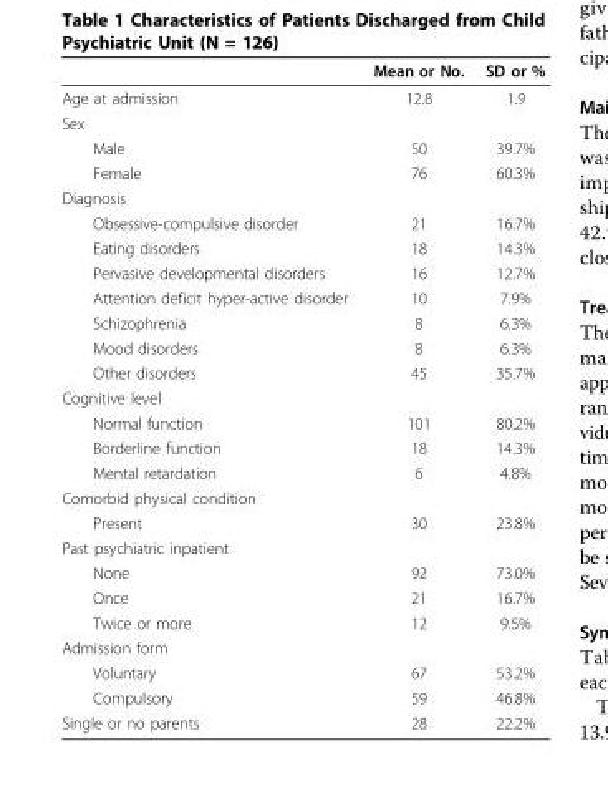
<table><thead><tr><td></td><td>Mean or No.</td><td>SD or %</td></tr></thead><tbody><tr><td>Age at admission</td><td>12.8</td><td>1.9</td></tr><tr><td colspan="3">Sex</td></tr><tr><td>Male</td><td>50</td><td>39.7%</td></tr><tr><td>Female</td><td>76</td><td>60.3%</td></tr><tr><td colspan="3">Diagnosis</td></tr><tr><td>Obsessive-compulsive disorder</td><td>21</td><td>16.7%</td></tr><tr><td>Eating disorders</td><td>18</td><td>14.3%</td></tr><tr><td>Pervasive developmental disorders</td><td>16</td><td>12.7%</td></tr><tr><td>Attention deficit hyper-active disorder</td><td>10</td><td>7.9%</td></tr><tr><td>Schizophrenia</td><td>8</td><td>6.3%</td></tr><tr><td>Mood disorders</td><td>8</td><td>6.3%</td></tr><tr><td>Other disorders</td><td>45</td><td>35.7%</td></tr><tr><td colspan="3">Cognitive level</td></tr><tr><td>Normal function</td><td>101</td><td>80.2%</td></tr><tr><td>Borderline function</td><td>18</td><td>14.3%</td></tr><tr><td>Mental retardation</td><td>6</td><td>4.8%</td></tr><tr><td colspan="3">Comorbid physical condition</td></tr><tr><td>Present</td><td>30</td><td>23.8%</td></tr><tr><td colspan="3">Past psychiatric inpatient</td></tr><tr><td>None</td><td>92</td><td>73.0%</td></tr><tr><td>Once</td><td>21</td><td>16.7%</td></tr><tr><td>Twice or more</td><td>12</td><td>9.5%</td></tr><tr><td colspan="3">Admission form</td></tr><tr><td>Voluntary</td><td>67</td><td>53.2%</td></tr><tr><td>Compulsory</td><td>59</td><td>46.8%</td></tr><tr><td>Single or no parents</td><td>28</td><td>22.2%</td></tr></tbody></table>